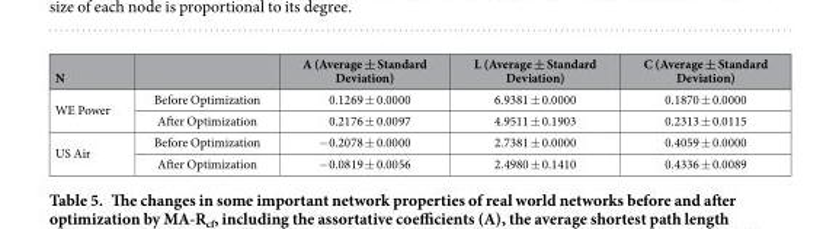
<table><thead><tr><td>N</td><td></td><td>A (Average ± Standard Deviation)</td><td>L (Average ± Standard Deviation)</td><td>C (Average ± Standard Deviation)</td></tr></thead><tbody><tr><td rowspan="2">WE Power</td><td>Before Optimization</td><td>0.1269 ± 0.0000</td><td>6.9381 ± 0.0000</td><td>0.1870 ± 0.0000</td></tr><tr><td>After Optimization</td><td>0.2176 ± 0.0097</td><td>4.9511 ± 0.1903</td><td>0.2313 ± 0.0115</td></tr><tr><td rowspan="2">US Air</td><td>Before Optimization</td><td>− 0.2078 ± 0.0000</td><td>2.7381 ± 0.0000</td><td>0.4059 ± 0.0000</td></tr><tr><td>After Optimization</td><td>− 0.0819 ± 0.0056</td><td>2.4980 ± 0.1410</td><td>0.4336 ± 0.0089</td></tr></tbody></table>